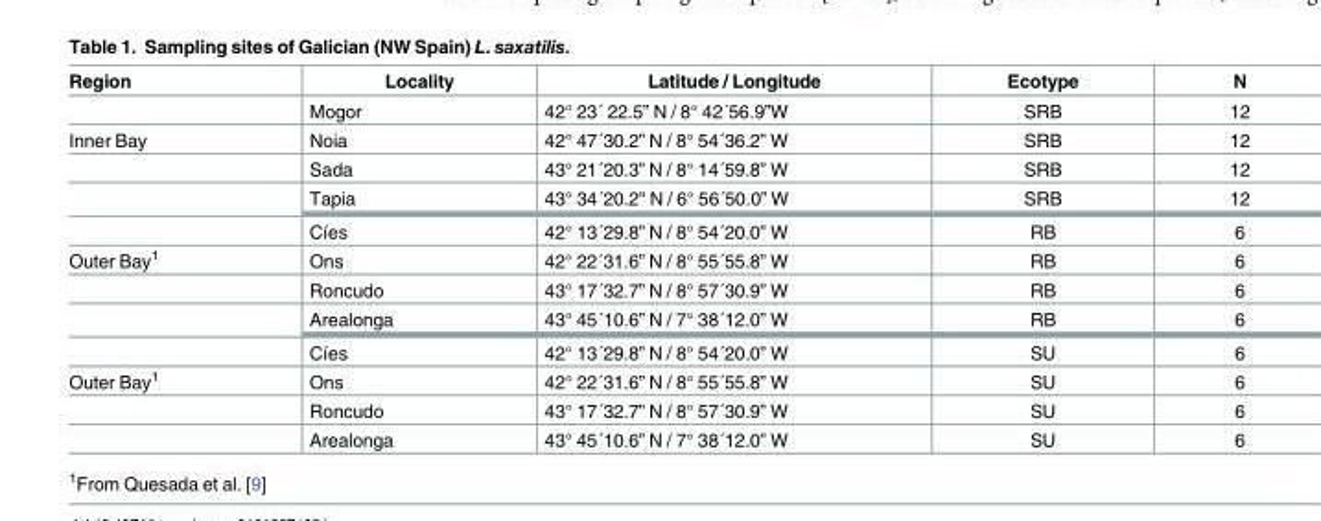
<table><thead><tr><td>Region</td><td>Locality</td><td>Latitude / Longitude</td><td>Ecotype</td><td>N</td></tr></thead><tbody><tr><td></td><td>Mogor</td><td>42° 23´ 22.5” N / 8° 42´56.9”W</td><td>SRB</td><td>12</td></tr><tr><td rowspan="4">Inner Bay</td><td>Noia</td><td>42° 47´30.2” N / 8° 54´36.2” W</td><td>SRB</td><td>12</td></tr><tr><td>Sada</td><td>43° 21´20.3” N / 8° 14´59.8” W</td><td>SRB</td><td>12</td></tr><tr><td>Tapia</td><td>43° 34´20.2&quot; N / 6° 56´50.0” W</td><td>SRB</td><td>12</td></tr><tr><td>Cíes</td><td>42° 13´29.8” N / 8° 54´20.0” W</td><td>RB</td><td>6</td></tr><tr><td rowspan="4">Outer Bay<sup>1</sup></td><td>Ons</td><td>42° 22´31.6” N / 8° 55´55.8” W</td><td>RB</td><td>6</td></tr><tr><td>Roncudo</td><td>43° 17´32.7” N / 8° 57´30.9” W</td><td>RB</td><td>6</td></tr><tr><td>Arealonga</td><td>43° 45´10.6” N / 7° 38´12.0” W</td><td>RB</td><td>6</td></tr><tr><td>Cíes</td><td>42° 13´29.8” N / 8° 54´20.0” W</td><td>SU</td><td>6</td></tr><tr><td rowspan="3">Outer Bay<sup>1</sup></td><td>Ons</td><td>42° 22´31.6” N / 8° 55´55.8” W</td><td>SU</td><td>6</td></tr><tr><td>Roncudo</td><td>43° 17´32.7” N / 8° 57´30.9” W</td><td>SU</td><td>6</td></tr><tr><td>Arealonga</td><td>43° 45´10.6” N / 7° 38´12.0” W</td><td>SU</td><td>6</td></tr></tbody></table>